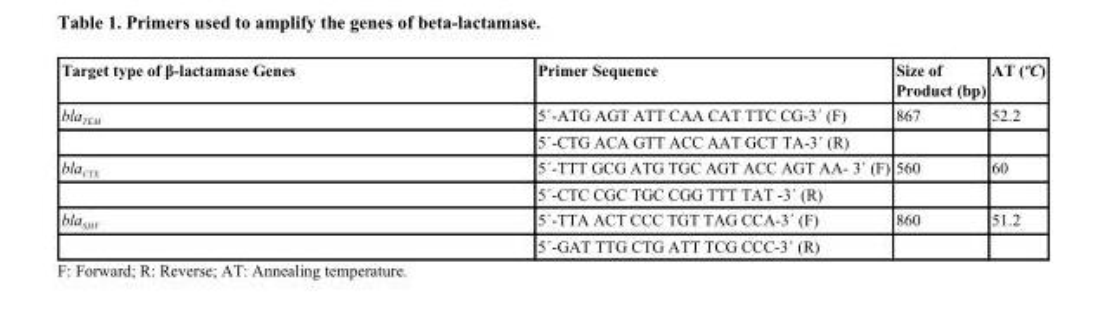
<table><thead><tr><td>Target type of β-lactamase Genes</td><td>Primer Sequence</td><td>Size of Product (bp)</td><td>AT (ºC)</td></tr></thead><tbody><tr><td rowspan="2">bla<sub>TEM</sub></td><td>5´-ATG AGT ATT CAA CAT TTC CG-3´ (F)</td><td>867</td><td>52.2</td></tr><tr><td>5´-CTG ACA GTT ACC AAT GCT TA-3´ (R)</td><td></td><td></td></tr><tr><td rowspan="2">bla<sub>CTX</sub></td><td>5´-TTT GCG ATG TGC AGT ACC AGT AA- 3´ (F)</td><td>560</td><td>60</td></tr><tr><td>5´-CTC CGC TGC CGG TTT TAT -3´ (R)</td><td></td><td></td></tr><tr><td rowspan="2">bla<sub>SHV</sub></td><td>5´-TTA ACT CCC TGT TAG CCA-3´ (F)</td><td>860</td><td>51.2</td></tr><tr><td>5´-GAT TTG CTG ATT TCG CCC-3´ (R)</td><td></td><td></td></tr></tbody></table>